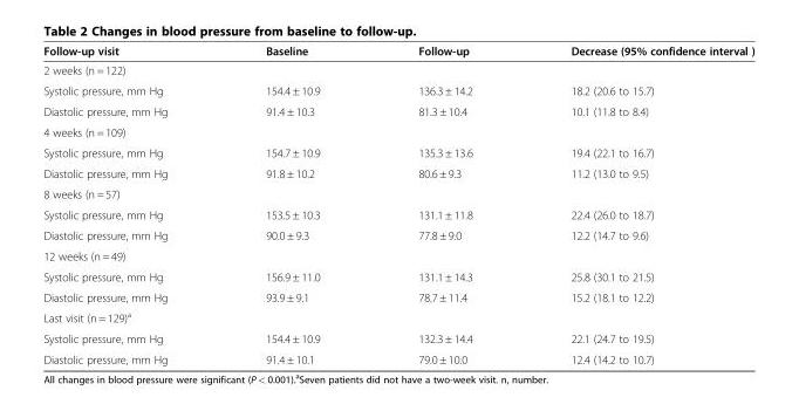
<table><thead><tr><td>Follow-up visit</td><td>Baseline</td><td>Follow-up</td><td>Decrease (95% confidence interval )</td></tr></thead><tbody><tr><td colspan="4">2 weeks (n = 122)</td></tr><tr><td>Systolic pressure, mm Hg</td><td>154.4 ± 10.9</td><td>136.3 ± 14.2</td><td>18.2 (20.6 to 15.7)</td></tr><tr><td>Diastolic pressure, mm Hg</td><td>91.4 ± 10.3</td><td>81.3 ± 10.4</td><td>10.1 (11.8 to 8.4)</td></tr><tr><td colspan="4">4 weeks (n = 109)</td></tr><tr><td>Systolic pressure, mm Hg</td><td>154.7 ± 10.9</td><td>135.3 ± 13.6</td><td>19.4 (22.1 to 16.7)</td></tr><tr><td>Diastolic pressure, mm Hg</td><td>91.8 ± 10.2</td><td>80.6 ± 9.3</td><td>11.2 (13.0 to 9.5)</td></tr><tr><td colspan="4">8 weeks (n = 57)</td></tr><tr><td>Systolic pressure, mm Hg</td><td>153.5 ± 10.3</td><td>131.1 ± 11.8</td><td>22.4 (26.0 to 18.7)</td></tr><tr><td>Diastolic pressure, mm Hg</td><td>90.0 ± 9.3</td><td>77.8 ± 9.0</td><td>12.2 (14.7 to 9.6)</td></tr><tr><td colspan="4">12 weeks (n = 49)</td></tr><tr><td>Systolic pressure, mm Hg</td><td>156.9 ± 11.0</td><td>131.1 ± 14.3</td><td>25.8 (30.1 to 21.5)</td></tr><tr><td>Diastolic pressure, mm Hg</td><td>93.9 ± 9.1</td><td>78.7 ± 11.4</td><td>15.2 (18.1 to 12.2)</td></tr><tr><td colspan="4">Last visit (n = 129)<sup>a</sup></td></tr><tr><td>Systolic pressure, mm Hg</td><td>154.4 ± 10.9</td><td>132.3 ± 14.4</td><td>22.1 (24.7 to 19.5)</td></tr><tr><td>Diastolic pressure, mm Hg</td><td>91.4 ± 10.1</td><td>79.0 ± 10.0</td><td>12.4 (14.2 to 10.7)</td></tr></tbody></table>